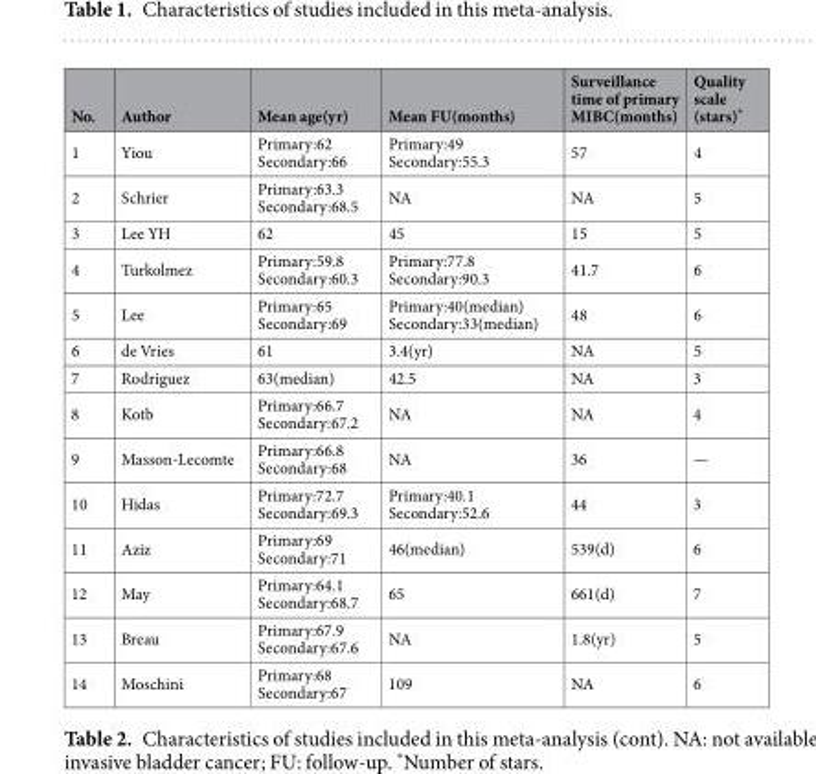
<table><thead><tr><td>No.</td><td>Author</td><td>Mean age(yr)</td><td>Mean FU(months)</td><td>Surveillance time of primary MIBC(months)</td><td>Quality scale (stars)*</td></tr></thead><tbody><tr><td>1</td><td>Yiou</td><td>Primary:62 Secondary:66</td><td>Primary:49 Secondary:55.3</td><td>57</td><td>4</td></tr><tr><td>2</td><td>Schrier</td><td>Primary:63.3 Secondary:68.5</td><td>NA</td><td>NA</td><td>5</td></tr><tr><td>3</td><td>Lee YH</td><td>62</td><td>45</td><td>15</td><td>5</td></tr><tr><td>4</td><td>Turkolmez</td><td>Primary:59.8 Secondary:60.3</td><td>Primary:77.8 Secondary:90.3</td><td>41.7</td><td>6</td></tr><tr><td>5</td><td>Lee</td><td>Primary:65 Secondary:69</td><td>Primary:40(median) Secondary:33(median)</td><td>48</td><td>6</td></tr><tr><td>6</td><td>de Vries</td><td>61</td><td>3.4(yr)</td><td>NA</td><td>5</td></tr><tr><td>7</td><td>Rodriguez</td><td>63(median)</td><td>42.5</td><td>NA</td><td>3</td></tr><tr><td>8</td><td>Kotb</td><td>Primary:66.7 Secondary:67.2</td><td>NA</td><td>NA</td><td>4</td></tr><tr><td>9</td><td>Masson-Lecomte</td><td>Primary:66.8 Secondary:68</td><td>NA</td><td>36</td><td>—</td></tr><tr><td>10</td><td>Hidas</td><td>Primary:72.7 Secondary:69.3</td><td>Primary:40.1 Secondary:52.6</td><td>44</td><td>3</td></tr><tr><td>11</td><td>Aziz</td><td>Primary:69 Secondary:71</td><td>46(median)</td><td>539(d)</td><td>6</td></tr><tr><td>12</td><td>May</td><td>Primary:64.1 Secondary:68.7</td><td>65</td><td>661(d)</td><td>7</td></tr><tr><td>13</td><td>Breau</td><td>Primary:67.9 Secondary:67.6</td><td>NA</td><td>1.8(yr)</td><td>5</td></tr><tr><td>14</td><td>Moschini</td><td>Primary:68 Secondary:67</td><td>109</td><td>NA</td><td>6</td></tr></tbody></table>